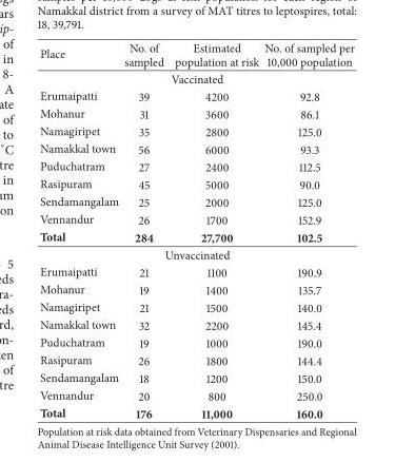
<table><thead><tr><td>Place</td><td>No. of sampled</td><td>Estimated population at risk</td><td>No. of sampled per 10,000 population</td></tr></thead><tbody><tr><td colspan="4">Vaccinated</td></tr><tr><td>Erumaipatti</td><td>39</td><td>4200</td><td>92.8</td></tr><tr><td>Mohanur</td><td>31</td><td>3600</td><td>86.1</td></tr><tr><td>Namagiripet</td><td>35</td><td>2800</td><td>125.0</td></tr><tr><td>Namakkal town</td><td>56</td><td>6000</td><td>93.3</td></tr><tr><td>Puduchatram</td><td>27</td><td>2400</td><td>112.5</td></tr><tr><td>Rasipuram</td><td>45</td><td>5000</td><td>90.0</td></tr><tr><td>Sendamangalam</td><td>25</td><td>2000</td><td>125.0</td></tr><tr><td>Vennandur</td><td>26</td><td>1700</td><td>152.9</td></tr><tr><td>Total</td><td>284</td><td>27,700</td><td>102.5</td></tr><tr><td colspan="4">Unvaccinated</td></tr><tr><td>Erumaipatti</td><td>21</td><td>1100</td><td>190.9</td></tr><tr><td>Mohanur</td><td>19</td><td>1400</td><td>135.7</td></tr><tr><td>Namagiripet</td><td>21</td><td>1500</td><td>140.0</td></tr><tr><td>Namakkal town</td><td>32</td><td>2200</td><td>145.4</td></tr><tr><td>Puduchatram</td><td>19</td><td>1000</td><td>190.0</td></tr><tr><td>Rasipuram</td><td>26</td><td>1800</td><td>144.4</td></tr><tr><td>Sendamangalam</td><td>18</td><td>1200</td><td>150.0</td></tr><tr><td>Vennandur</td><td>20</td><td>800</td><td>250.0</td></tr><tr><td>Total</td><td>176</td><td>11,000</td><td>160.0</td></tr></tbody></table>